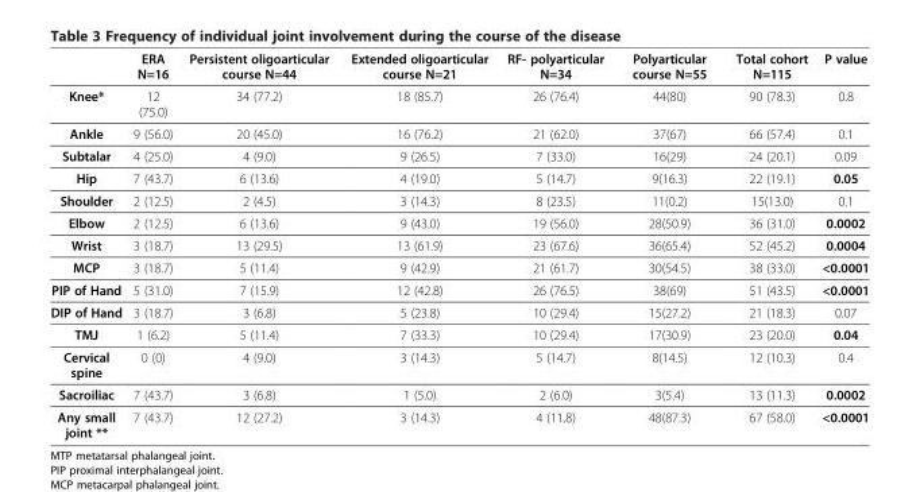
<table><thead><tr><td></td><td>ERA N=16</td><td>Persistent oligoarticular course N=44</td><td>Extended oligoarticular course N=21</td><td>RF- polyarticular N=34</td><td>Polyarticular course N=55</td><td>Total cohort N=115</td><td>P value</td></tr></thead><tbody><tr><td>Knee*</td><td>12 (75.0)</td><td>34 (77.2)</td><td>18 (85.7)</td><td>26 (76.4)</td><td>44(80)</td><td>90 (78.3)</td><td>0.8</td></tr><tr><td>Ankle</td><td>9 (56.0)</td><td>20 (45.0)</td><td>16 (76.2)</td><td>21 (62.0)</td><td>37(67)</td><td>66 (57.4)</td><td>0.1</td></tr><tr><td>Subtalar</td><td>4 (25.0)</td><td>4 (9.0)</td><td>9 (26.5)</td><td>7 (33.0)</td><td>16(29)</td><td>24 (20.1)</td><td>0.09</td></tr><tr><td>Hip</td><td>7 (43.7)</td><td>6 (13.6)</td><td>4 (19.0)</td><td>5 (14.7)</td><td>9(16.3)</td><td>22 (19.1)</td><td>0.05</td></tr><tr><td>Shoulder</td><td>2 (12.5)</td><td>2 (4.5)</td><td>3 (14.3)</td><td>8 (23.5)</td><td>11(0.2)</td><td>15(13.0)</td><td>0.1</td></tr><tr><td>Elbow</td><td>2 (12.5)</td><td>6 (13.6)</td><td>9 (43.0)</td><td>19 (56.0)</td><td>28(50.9)</td><td>36 (31.0)</td><td>0.0002</td></tr><tr><td>Wrist</td><td>3 (18.7)</td><td>13 (29.5)</td><td>13 (61.9)</td><td>23 (67.6)</td><td>36(65.4)</td><td>52 (45.2)</td><td>0.0004</td></tr><tr><td>MCP</td><td>3 (18.7)</td><td>5 (11.4)</td><td>9 (42.9)</td><td>21 (61.7)</td><td>30(54.5)</td><td>38 (33.0)</td><td>&lt;0.0001</td></tr><tr><td>PIP of Hand</td><td>5 (31.0)</td><td>7 (15.9)</td><td>12 (42.8)</td><td>26 (76.5)</td><td>38(69)</td><td>51 (43.5)</td><td>&lt;0.0001</td></tr><tr><td>DIP of Hand</td><td>3 (18.7)</td><td>3 (6.8)</td><td>5 (23.8)</td><td>10 (29.4)</td><td>15(27.2)</td><td>21 (18.3)</td><td>0.07</td></tr><tr><td>TMJ</td><td>1 (6.2)</td><td>5 (11.4)</td><td>7 (33.3)</td><td>10 (29.4)</td><td>17(30.9)</td><td>23 (20.0)</td><td>0.04</td></tr><tr><td>Cervical spine</td><td>0 (0)</td><td>4 (9.0)</td><td>3 (14.3)</td><td>5 (14.7)</td><td>8(14.5)</td><td>12 (10.3)</td><td>0.4</td></tr><tr><td>Sacroiliac</td><td>7 (43.7)</td><td>3 (6.8)</td><td>1 (5.0)</td><td>2 (6.0)</td><td>3(5.4)</td><td>13 (11.3)</td><td>0.0002</td></tr><tr><td>Any small joint **</td><td>7 (43.7)</td><td>12 (27.2)</td><td>3 (14.3)</td><td>4 (11.8)</td><td>48(87.3)</td><td>67 (58.0)</td><td>&lt;0.0001</td></tr></tbody></table>